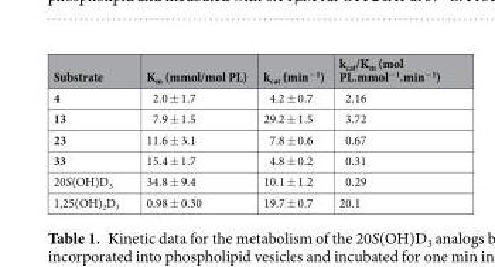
<table><thead><tr><td>Substrate</td><td>K<sub>m</sub> (mmol/mol PL)</td><td>k<sub>cat</sub> (min<sup>−1</sup>)</td><td>k<sub>cat</sub>/K<sub>m</sub> (mol PL.mmol<sup>−1</sup>.min<sup>−1</sup>)</td></tr></thead><tbody><tr><td>4</td><td>2.0 ± 1.7</td><td>4.2 ± 0.7</td><td>2.16</td></tr><tr><td>13</td><td>7.9 ± 1.5</td><td>29.2 ± 1.5</td><td>3.72</td></tr><tr><td>23</td><td>11.6 ± 3.1</td><td>7.8 ± 0.6</td><td>0.67</td></tr><tr><td>33</td><td>15.4 ± 1.7</td><td>4.8 ± 0.2</td><td>0.31</td></tr><tr><td>20S(OH)D<sub>3</sub></td><td>34.8 ± 9.4</td><td>10.1 ± 1.2</td><td>0.29</td></tr><tr><td>1,25(OH)<sub>2</sub>D<sub>3</sub></td><td>0.98 ± 0.30</td><td>19.7 ± 0.7</td><td>20.1</td></tr></tbody></table>